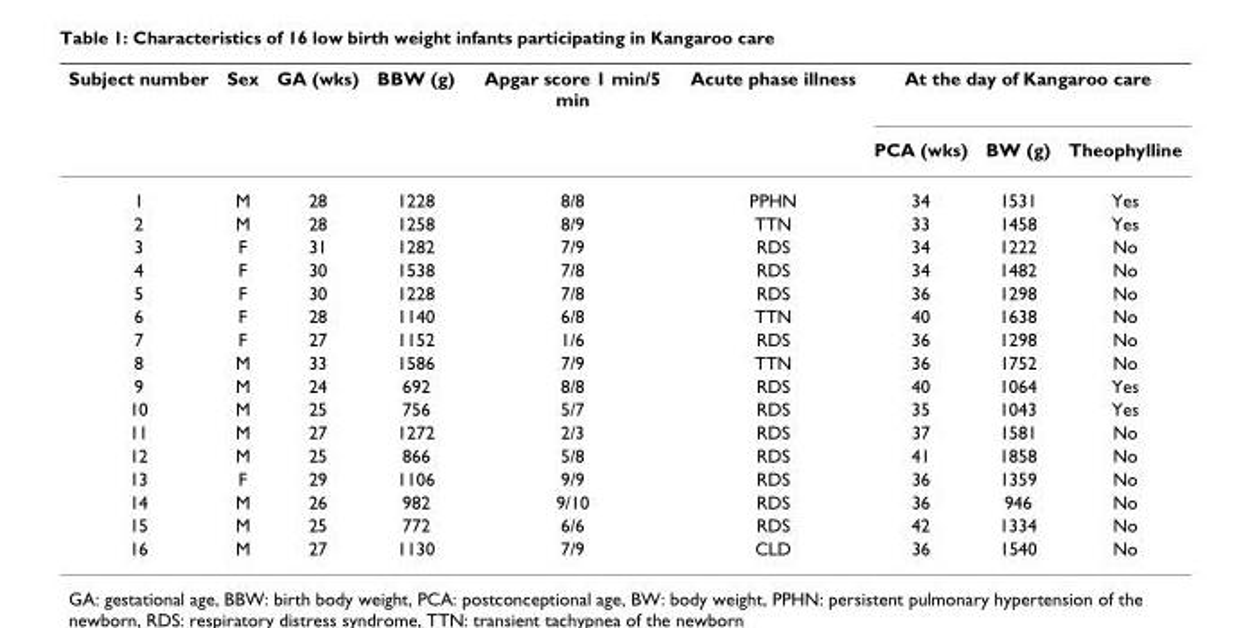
<table><thead><tr><td rowspan="2">Subject number</td><td rowspan="2">Sex</td><td rowspan="2">GA (wks)</td><td rowspan="2">BBW (g)</td><td rowspan="2">Apgar score 1 min/5 min</td><td rowspan="2">Acute phase illness</td><td colspan="3">At the day of Kangaroo care</td></tr><tr><td>PCA (wks)</td><td>BW (g)</td><td>Theophylline</td></tr></thead><tbody><tr><td>1</td><td>M</td><td>28</td><td>1228</td><td>8/8</td><td>PPHN</td><td>34</td><td>1531</td><td>Yes</td></tr><tr><td>2</td><td>M</td><td>28</td><td>1258</td><td>8/9</td><td>TTN</td><td>33</td><td>1458</td><td>Yes</td></tr><tr><td>3</td><td>F</td><td>31</td><td>1282</td><td>7/9</td><td>RDS</td><td>34</td><td>1222</td><td>No</td></tr><tr><td>4</td><td>F</td><td>30</td><td>1538</td><td>7/8</td><td>RDS</td><td>34</td><td>1482</td><td>No</td></tr><tr><td>5</td><td>F</td><td>30</td><td>1228</td><td>7/8</td><td>RDS</td><td>36</td><td>1298</td><td>No</td></tr><tr><td>6</td><td>F</td><td>28</td><td>1140</td><td>6/8</td><td>TTN</td><td>40</td><td>1638</td><td>No</td></tr><tr><td>7</td><td>F</td><td>27</td><td>1152</td><td>1/6</td><td>RDS</td><td>36</td><td>1298</td><td>No</td></tr><tr><td>8</td><td>M</td><td>33</td><td>1586</td><td>7/9</td><td>TTN</td><td>36</td><td>1752</td><td>No</td></tr><tr><td>9</td><td>M</td><td>24</td><td>692</td><td>8/8</td><td>RDS</td><td>40</td><td>1064</td><td>Yes</td></tr><tr><td>10</td><td>M</td><td>25</td><td>756</td><td>5/7</td><td>RDS</td><td>35</td><td>1043</td><td>Yes</td></tr><tr><td>11</td><td>M</td><td>27</td><td>1272</td><td>2/3</td><td>RDS</td><td>37</td><td>1581</td><td>No</td></tr><tr><td>12</td><td>M</td><td>25</td><td>866</td><td>5/8</td><td>RDS</td><td>41</td><td>1858</td><td>No</td></tr><tr><td>13</td><td>F</td><td>29</td><td>1106</td><td>9/9</td><td>RDS</td><td>36</td><td>1359</td><td>No</td></tr><tr><td>14</td><td>M</td><td>26</td><td>982</td><td>9/10</td><td>RDS</td><td>36</td><td>946</td><td>No</td></tr><tr><td>15</td><td>M</td><td>25</td><td>772</td><td>6/6</td><td>RDS</td><td>42</td><td>1334</td><td>No</td></tr><tr><td>16</td><td>M</td><td>27</td><td>1130</td><td>7/9</td><td>CLD</td><td>36</td><td>1540</td><td>No</td></tr></tbody></table>